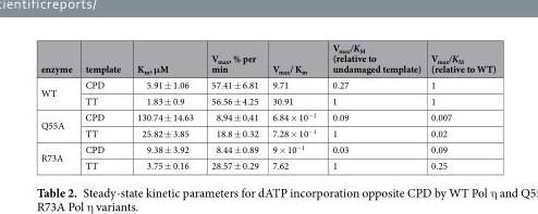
<table><thead><tr><td>enzyme</td><td>template</td><td>K<sub>m</sub>, μM</td><td>V<sub>max</sub>, % per min</td><td>V<sub>max</sub>/ K<sub>m</sub></td><td>V<sub>max</sub>/K<sub>M</sub> (relative to undamaged template)</td><td>V<sub>max</sub>/K<sub>M</sub> (relative to WT)</td></tr></thead><tbody><tr><td rowspan="2">WT</td><td>CPD</td><td>5.91 ± 1.06</td><td>57.41 ± 6.81</td><td>9.71</td><td>0.27</td><td>1</td></tr><tr><td>TT</td><td>1.83 ± 0.9</td><td>56.56 ± 4.25</td><td>30.91</td><td>1</td><td>1</td></tr><tr><td rowspan="2">Q55A</td><td>CPD</td><td>130.74 ± 14.63</td><td>8,94 ± 0,41</td><td>6.84 × 10<sup>−2</sup></td><td>0.09</td><td>0.007</td></tr><tr><td>TT</td><td>25.82 ± 3.85</td><td>18.8 ± 0.32</td><td>7.28 × 10<sup>−1</sup></td><td>1</td><td>0.02</td></tr><tr><td rowspan="2">R73A</td><td>CPD</td><td>9.38 ± 3.92</td><td>8.44 ± 0.89</td><td>9 × 10<sup>−1</sup></td><td>0.03</td><td>0.09</td></tr><tr><td>TT</td><td>3.75 ± 0.16</td><td>28.57 ± 0.29</td><td>7.62</td><td>1</td><td>0.25</td></tr></tbody></table>